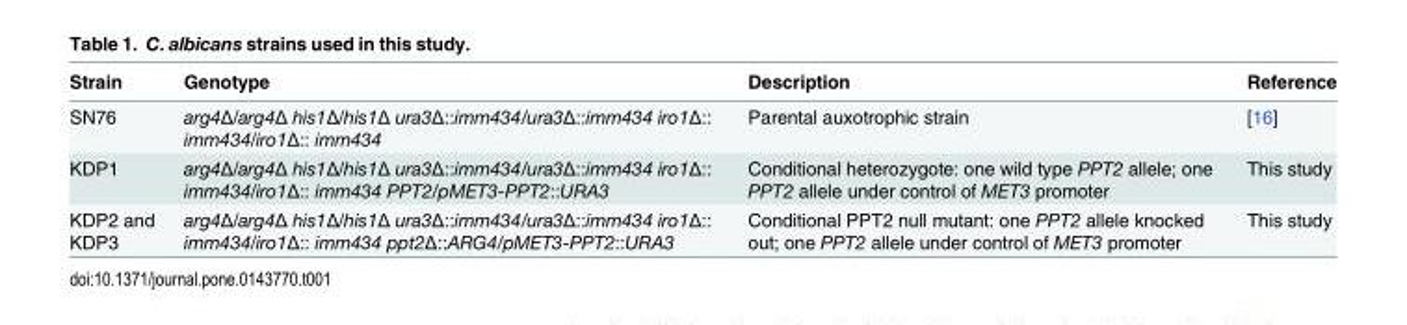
<table><thead><tr><td>Strain</td><td>Genotype</td><td>Description</td><td>Reference</td></tr></thead><tbody><tr><td>SN76</td><td>arg4Δ/arg4Δ his1Δ/his1Δ ura3Δ::imm434/ura3Δ::imm434 iro1Δ:: imm434/iro1Δ:: imm434</td><td>Parental auxotrophic strain</td><td>[16]</td></tr><tr><td>KDP1</td><td>arg4Δ/arg4Δ his1Δ/his1Δ ura3Δ::imm434/ura3Δ::imm434 iro1Δ:: imm434/iro1Δ:: imm434 PPT2/pMET3-PPT2::URA3</td><td>Conditional heterozygote: one wild type PPT2 allele; one PPT2 allele under control of MET3 promoter</td><td>This study</td></tr><tr><td>KDP2 and KDP3</td><td>arg4Δ/arg4Δ his1Δ/his1Δ ura3Δ::imm434/ura3Δ::imm434 iro1Δ:: imm434/iro1Δ:: imm434 ppt2Δ::ARG4/pMET3-PPT2::URA3</td><td>Conditional PPT2 null mutant: one PPT2 allele knocked out; one PPT2 allele under control of MET3 promoter</td><td>This study</td></tr></tbody></table>